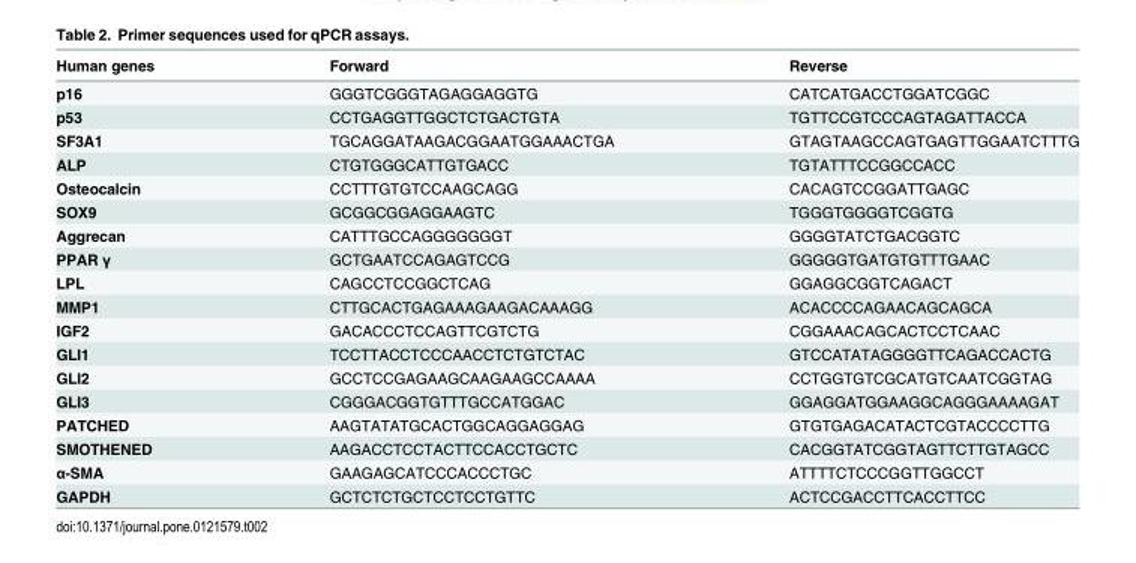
<table><thead><tr><td>Human genes</td><td>Forward</td><td>Reverse</td></tr></thead><tbody><tr><td>p16</td><td>GGGTCGGGTAGAGGAGGTG</td><td>CATCATGACCTGGATCGGC</td></tr><tr><td>p53</td><td>CCTGAGGTTGGCTCTGACTGTA</td><td>TGTTCCGTCCCAGTAGATTACCA</td></tr><tr><td>SF3A1</td><td>TGCAGGATAAGACGGAATGGAAACTGA</td><td>GTAGTAAGCCAGTGAGTTGGAATCTTTG</td></tr><tr><td>ALP</td><td>CTGTGGGCATTGTGACC</td><td>TGTATTTCCGGCCACC</td></tr><tr><td>Osteocalcin</td><td>CCTTTGTGTCCAAGCAGG</td><td>CACAGTCCGGATTGAGC</td></tr><tr><td>SOX9</td><td>GCGGCGGAGGAAGTC</td><td>TGGGTGGGGTCGGTG</td></tr><tr><td>Aggrecan</td><td>CATTTGCCAGGGGGGGT</td><td>GGGGTATCTGACGGTC</td></tr><tr><td>PPAR γ</td><td>GCTGAATCCAGAGTCCG</td><td>GGGGGTGATGTGTTTGAAC</td></tr><tr><td>LPL</td><td>CAGCCTCCGGCTCAG</td><td>GGAGGCGGTCAGACT</td></tr><tr><td>MMP1</td><td>CTTGCACTGAGAAAGAAGACAAAGG</td><td>ACACCCCAGAACAGCAGCA</td></tr><tr><td>IGF2</td><td>GACACCCTCCAGTTCGTCTG</td><td>CGGAAACAGCACTCCTCAAC</td></tr><tr><td>GLI1</td><td>TCCTTACCTCCCAACCTCTGTCTAC</td><td>GTCCATATAGGGGTTCAGACCACTG</td></tr><tr><td>GLI2</td><td>GCCTCCGAGAAGCAAGAAGCCAAAA</td><td>CCTGGTGTCGCATGTCAATCGGTAG</td></tr><tr><td>GLI3</td><td>CGGGACGGTGTTTGCCATGGAC</td><td>GGAGGATGGAAGGCAGGGAAAAGAT</td></tr><tr><td>PATCHED</td><td>AAGTATATGCACTGGCAGGAGGAG</td><td>GTGTGAGACATACTCGTACCCCTTG</td></tr><tr><td>SMOTHENED</td><td>AAGACCTCCTACTTCCACCTGCTC</td><td>CACGGTATCGGTAGTTCTTGTAGCC</td></tr><tr><td>α-SMA</td><td>GAAGAGCATCCCACCCTGC</td><td>ATTTTCTCCCGGTTGGCCT</td></tr><tr><td>GAPDH</td><td>GCTCTCTGCTCCTCCTGTTC</td><td>ACTCCGACCTTCACCTTCC</td></tr></tbody></table>